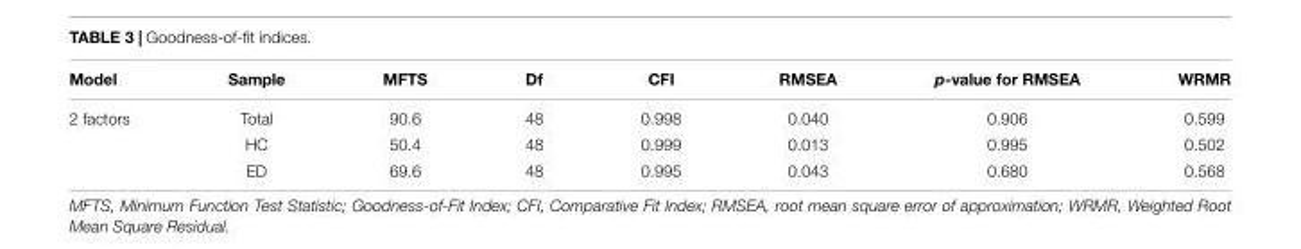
<table><thead><tr><td>Model</td><td>Sample</td><td>MFTS</td><td>Df</td><td>CFI</td><td>RMSEA</td><td>p-value for RMSEA</td><td>WRMR</td></tr></thead><tbody><tr><td rowspan="3">2 factors</td><td>Total</td><td>90.6</td><td>48</td><td>0.998</td><td>0.040</td><td>0.906</td><td>0.599</td></tr><tr><td>HC</td><td>50.4</td><td>48</td><td>0.999</td><td>0.013</td><td>0.995</td><td>0.502</td></tr><tr><td>ED</td><td>69.6</td><td>48</td><td>0.995</td><td>0.043</td><td>0.680</td><td>0.568</td></tr></tbody></table>